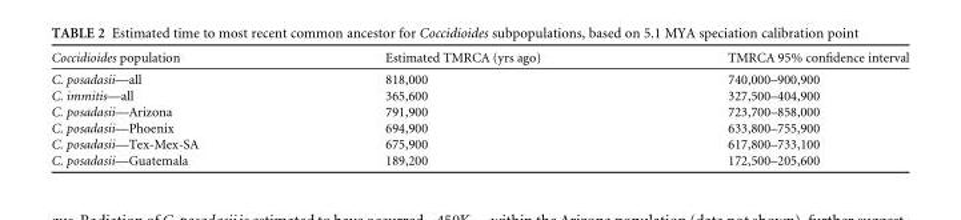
<table><thead><tr><td>Coccidioides population</td><td>Estimated TMRCA (yrs ago)</td><td>TMRCA 95% confidence interval</td></tr></thead><tbody><tr><td>C. posadasii—all</td><td>818,000</td><td>740,000–900,900</td></tr><tr><td>C. immitis—all</td><td>365,600</td><td>327,500–404,900</td></tr><tr><td>C. posadasii—Arizona</td><td>791,900</td><td>723,700–858,000</td></tr><tr><td>C. posadasii—Phoenix</td><td>694,900</td><td>633,800–755,900</td></tr><tr><td>C. posadasii—Tex-Mex-SA</td><td>675,900</td><td>617,800–733,100</td></tr><tr><td>C. posadasii—Guatemala</td><td>189,200</td><td>172,500–205,600</td></tr></tbody></table>